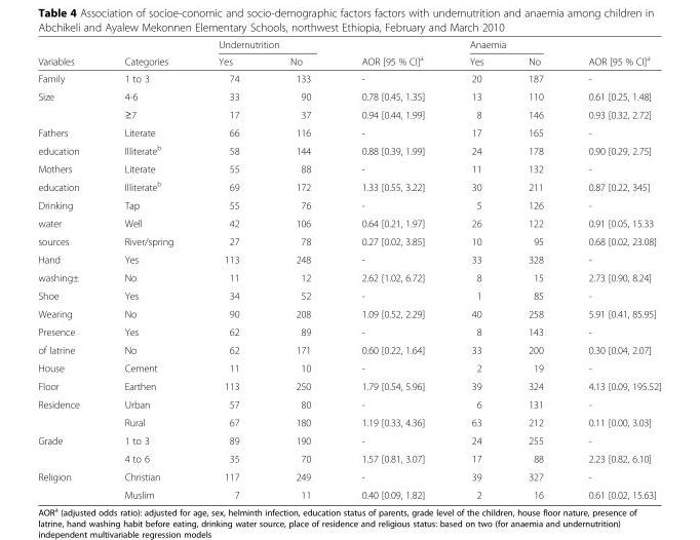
<table><thead><tr><td rowspan="2">Variables</td><td rowspan="2">Categories</td><td colspan="2">Undernutrition</td><td rowspan="2">AOR [95 % CI]<sup>a</sup></td><td colspan="2">Anaemia</td><td rowspan="2">AOR [95 % CI]<sup>a</sup></td></tr><tr><td>Yes</td><td>No</td><td>Yes</td><td>No</td></tr></thead><tbody><tr><td>Family</td><td>1 to 3</td><td>74</td><td>133</td><td>-</td><td>20</td><td>187</td><td>-</td></tr><tr><td rowspan="2">Size</td><td>4-6</td><td>33</td><td>90</td><td>0.78 [0.45, 1.35]</td><td>13</td><td>110</td><td>0.61 [0.25, 1.48]</td></tr><tr><td>≥7</td><td>17</td><td>37</td><td>0.94 [0.44, 1.99]</td><td>8</td><td>146</td><td>0.93 [0.32, 2.72]</td></tr><tr><td>Fathers</td><td>Literate</td><td>66</td><td>116</td><td>-</td><td>17</td><td>165</td><td>-</td></tr><tr><td>education</td><td>Illiterate<sup>b</sup></td><td>58</td><td>144</td><td>0.88 [0.39, 1.99]</td><td>24</td><td>178</td><td>0.90 [0.29, 2.75]</td></tr><tr><td>Mothers</td><td>Literate</td><td>55</td><td>88</td><td>-</td><td>11</td><td>132</td><td>-</td></tr><tr><td>education</td><td>Illiterate<sup>b</sup></td><td>69</td><td>172</td><td>1.33 [0.55, 3.22]</td><td>30</td><td>211</td><td>0.87 [0.22, 345]</td></tr><tr><td>Drinking</td><td>Tap</td><td>55</td><td>76</td><td>-</td><td>5</td><td>126</td><td>-</td></tr><tr><td>water</td><td>Well</td><td>42</td><td>106</td><td>0.64 [0.21, 1.97]</td><td>26</td><td>122</td><td>0.91 [0.05, 15.33</td></tr><tr><td>sources</td><td>River/spring</td><td>27</td><td>78</td><td>0.27 [0.02, 3.85]</td><td>10</td><td>95</td><td>0.68 [0.02, 23.08]</td></tr><tr><td>Hand</td><td>Yes</td><td>113</td><td>248</td><td>-</td><td>33</td><td>328</td><td>-</td></tr><tr><td>washing±</td><td>No</td><td>11</td><td>12</td><td>2.62 [1.02, 6.72]</td><td>8</td><td>15</td><td>2.73 [0.90, 8.24]</td></tr><tr><td>Shoe</td><td>Yes</td><td>34</td><td>52</td><td>-</td><td>1</td><td>85</td><td>-</td></tr><tr><td>Wearing</td><td>No</td><td>90</td><td>208</td><td>1.09 [0.52, 2.29]</td><td>40</td><td>258</td><td>5.91 [0.41, 85.95]</td></tr><tr><td>Presence</td><td>Yes</td><td>62</td><td>89</td><td>-</td><td>8</td><td>143</td><td>-</td></tr><tr><td>of latrine</td><td>No</td><td>62</td><td>171</td><td>0.60 [0.22, 1.64]</td><td>33</td><td>200</td><td>0.30 [0.04, 2.07]</td></tr><tr><td>House</td><td>Cement</td><td>11</td><td>10</td><td>-</td><td>2</td><td>19</td><td>-</td></tr><tr><td>Floor</td><td>Earthen</td><td>113</td><td>250</td><td>1.79 [0.54, 5.96]</td><td>39</td><td>324</td><td>4.13 [0.09, 195.52]</td></tr><tr><td rowspan="2">Residence</td><td>Urban</td><td>57</td><td>80</td><td>-</td><td>6</td><td>131</td><td>-</td></tr><tr><td>Rural</td><td>67</td><td>180</td><td>1.19 [0.33, 4.36]</td><td>63</td><td>212</td><td>0.11 [0.00, 3.03]</td></tr><tr><td rowspan="2">Grade</td><td>1 to 3</td><td>89</td><td>190</td><td>-</td><td>24</td><td>255</td><td>-</td></tr><tr><td>4 to 6</td><td>35</td><td>70</td><td>1.57 [0.81, 3.07]</td><td>17</td><td>88</td><td>2.23 [0.82, 6.10]</td></tr><tr><td rowspan="2">Religion</td><td>Christian</td><td>117</td><td>249</td><td>-</td><td>39</td><td>327</td><td>-</td></tr><tr><td>Muslim</td><td>7</td><td>11</td><td>0.40 [0.09, 1.82]</td><td>2</td><td>16</td><td>0.61 [0.02, 15.63]</td></tr></tbody></table>